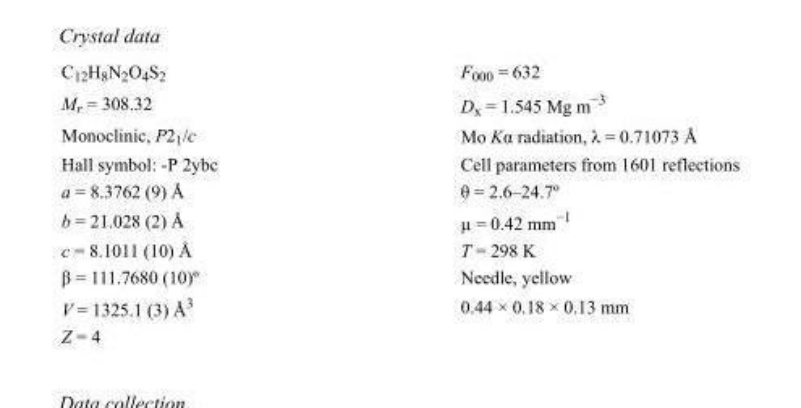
<table><tbody><tr><td>C<sub>12</sub>H<sub>8</sub>N<sub>2</sub>O<sub>4</sub>S<sub>2</sub></td><td>F000 = 632</td></tr><tr><td>M<sub>r</sub> = 308.32</td><td>D<sub>x</sub> = 1.545 Mg m<sup>−3</sup></td></tr><tr><td>Monoclinic, P2<sub>1</sub>/c</td><td>Mo Kα radiation, λ = 0.71073 Å</td></tr><tr><td>Hall symbol: -P 2ybc</td><td>Cell parameters from 1601 reflections</td></tr><tr><td>a = 8.3762 (9) Å</td><td>θ = 2.6–24.7º</td></tr><tr><td>b = 21.028 (2) Å</td><td>µ = 0.42 mm<sup>−1</sup></td></tr><tr><td>c = 8.1011 (10) Å</td><td>T = 298 K</td></tr><tr><td>β = 111.7680 (10)º</td><td>Needle, yellow</td></tr><tr><td>V = 1325.1 (3) Å<sup>3</sup></td><td>0.44 × 0.18 × 0.13 mm</td></tr><tr><td>Z = 4</td><td></td></tr></tbody></table>